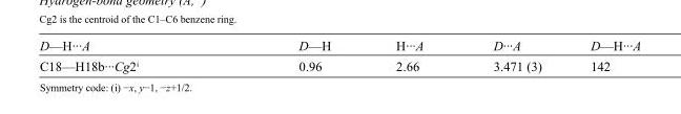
<table><tbody><tr><td>D—H···A</td><td>D—H</td><td>H···A</td><td>D···A</td><td>D—H···A</td></tr><tr><td>C18—H18b···Cg2<sup>i</sup></td><td>0.96</td><td>2.66</td><td>3.471 (3)</td><td>142</td></tr></tbody></table>